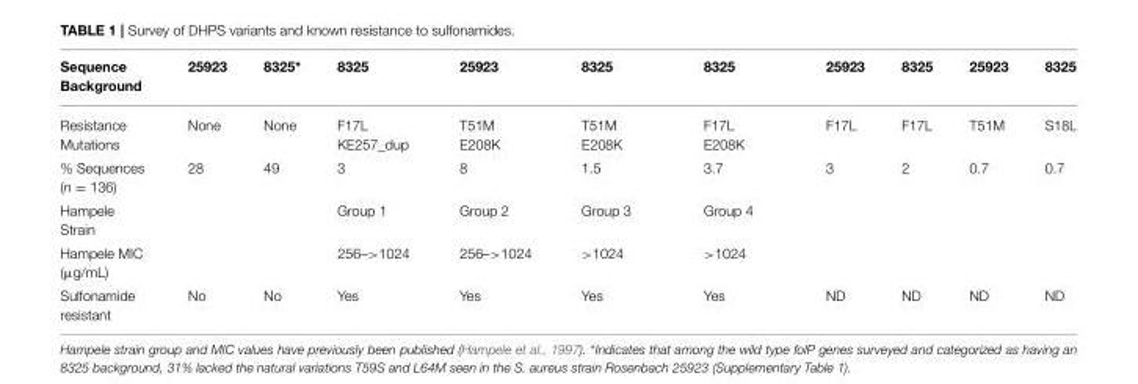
<table><thead><tr><td>Sequence Background</td><td>25923</td><td>8325*</td><td>8325</td><td>25923</td><td>8325</td><td>8325</td><td>25923</td><td>8325</td><td>25923</td><td>8325</td></tr></thead><tbody><tr><td>Resistance Mutations</td><td>None</td><td>None</td><td>F17L KE257_dup</td><td>T51M E208K</td><td>T51M E208K</td><td>F17L E208K</td><td>F17L</td><td>F17L</td><td>T51M</td><td>S18L</td></tr><tr><td>% Sequences (n = 136)</td><td>28</td><td>49</td><td>3</td><td>8</td><td>1.5</td><td>3.7</td><td>3</td><td>2</td><td>0.7</td><td>0.7</td></tr><tr><td>Hampele Strain</td><td></td><td></td><td>Group 1</td><td>Group 2</td><td>Group 3</td><td>Group 4</td><td></td><td></td><td></td><td></td></tr><tr><td>Hampele MIC (µg/mL)</td><td></td><td></td><td>256–&gt;1024</td><td>256–&gt;1024</td><td>&gt;1024</td><td>&gt;1024</td><td></td><td></td><td></td><td></td></tr><tr><td>Sulfonamide resistant</td><td>No</td><td>No</td><td>Yes</td><td>Yes</td><td>Yes</td><td>Yes</td><td>ND</td><td>ND</td><td>ND</td><td>ND</td></tr></tbody></table>